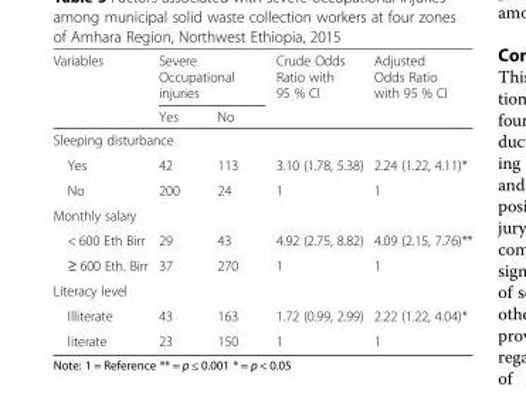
<table><thead><tr><td rowspan="2">Variables</td><td colspan="2">Severe Occupational injuries</td><td rowspan="2">Crude Odds Ratio with 95 % CI</td><td rowspan="2">Adjusted Odds Ratio with 95 % CI</td></tr><tr><td>Yes</td><td>No</td></tr></thead><tbody><tr><td colspan="5">Sleeping disturbance</td></tr><tr><td>Yes</td><td>42</td><td>113</td><td>3.10 (1.78, 5.38)</td><td>2.24 (1.22, 4.11)*</td></tr><tr><td>No</td><td>200</td><td>24</td><td>1</td><td>1</td></tr><tr><td colspan="5">Monthly salary</td></tr><tr><td>&lt; 600 Eth Birr</td><td>29</td><td>43</td><td>4.92 (2.75, 8.82)</td><td>4.09 (2.15, 7.76)**</td></tr><tr><td>≥ 600 Eth. Birr</td><td>37</td><td>270</td><td>1</td><td>1</td></tr><tr><td colspan="5">Literacy level</td></tr><tr><td>Illiterate</td><td>43</td><td>163</td><td>1.72 (0.99, 2.99)</td><td>2.22 (1.22, 4.04)*</td></tr><tr><td>literate</td><td>23</td><td>150</td><td>1</td><td>1</td></tr></tbody></table>